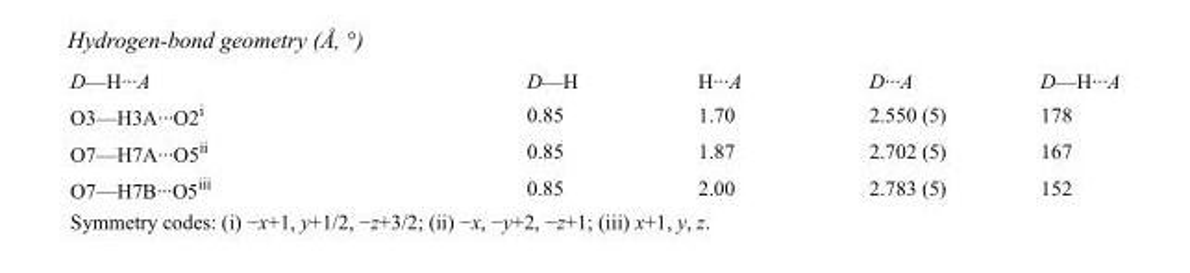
<table><tbody><tr><td>D—H···A</td><td>D—H</td><td>H···A</td><td>D···A</td><td>D—H···A</td></tr><tr><td>O3—H3A···O2<sup>i</sup></td><td>0.85</td><td>1.70</td><td>2.550 (5)</td><td>178</td></tr><tr><td>O7—H7A···O5<sup>ii</sup></td><td>0.85</td><td>1.87</td><td>2.702 (5)</td><td>167</td></tr><tr><td>O7—H7B···O5<sup>iii</sup></td><td>0.85</td><td>2.00</td><td>2.783 (5)</td><td>152</td></tr></tbody></table>